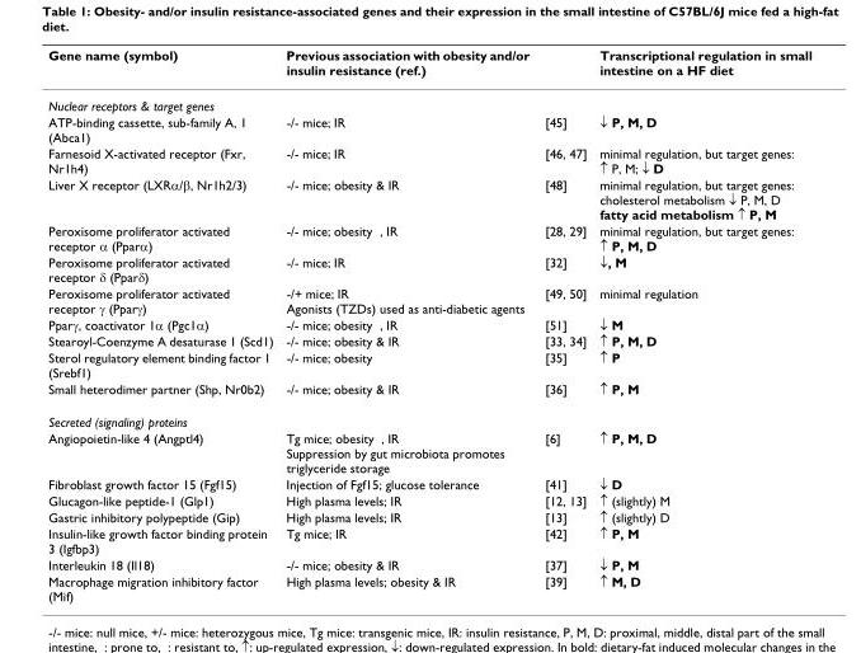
<table><thead><tr><td>Gene name (symbol)</td><td>Previous association with obesity and/or insulin resistance (ref.)</td><td></td><td>Transcriptional regulation in small intestine on a HF diet</td></tr></thead><tbody><tr><td colspan="4">Nuclear receptors &amp; target genes</td></tr><tr><td>ATP-binding cassette, sub-family A, 1 (Abca1)</td><td>-/- mice; IR</td><td>[45]</td><td>↓ P, M, D</td></tr><tr><td>Farnesoid X-activated receptor (Fxr, Nr1h4)</td><td>-/- mice; IR</td><td>[46, 47]</td><td>minimal regulation, but target genes: ↑ P, M; ↓ D</td></tr><tr><td>Liver X receptor (LXRα/β, Nr1h2/3)</td><td>-/- mice; obesity &amp; IR</td><td>[48]</td><td>minimal regulation, but target genes: cholesterol metabolism ↓ P, M, D fatty acid metabolism ↑ P, M</td></tr><tr><td>Peroxisome proliferator activated receptor α (Pparα)</td><td>-/- mice; obesity , IR</td><td>[28, 29]</td><td>minimal regulation, but target genes: ↑ P, M, D</td></tr><tr><td>Peroxisome proliferator activated receptor δ (Pparδ)</td><td>-/- mice; IR</td><td>[32]</td><td>↓, M</td></tr><tr><td>Peroxisome proliferator activated receptor γ (Pparγ)</td><td>-/+ mice; IR Agonists (TZDs) used as anti-diabetic agents</td><td>[49, 50]</td><td>minimal regulation</td></tr><tr><td>Pparγ, coactivator 1α (Pgc1α)</td><td>-/- mice; obesity , IR</td><td>[51]</td><td>↓ M</td></tr><tr><td>Stearoyl-Coenzyme A desaturase 1 (Scd1)</td><td>-/- mice; obesity &amp; IR</td><td>[33, 34]</td><td>↑ P, M, D</td></tr><tr><td>Sterol regulatory element binding factor 1 (Srebf1)</td><td>-/- mice; obesity</td><td>[35]</td><td>↑ P</td></tr><tr><td>Small heterodimer partner (Shp, Nr0b2)</td><td>-/- mice; obesity &amp; IR</td><td>[36]</td><td>↑ P, M</td></tr><tr><td colspan="4">Secreted (signaling) proteins</td></tr><tr><td>Angiopoietin-like 4 (Angptl4)</td><td>Tg mice; obesity , IR Suppression by gut microbiota promotes triglyceride storage</td><td>[6]</td><td>↑ P, M, D</td></tr><tr><td>Fibroblast growth factor 15 (Fgf15)</td><td>Injection of Fgf15; glucose tolerance</td><td>[41]</td><td>↓ D</td></tr><tr><td>Glucagon-like peptide-1 (Glp1)</td><td>High plasma levels; IR</td><td>[12, 13]</td><td>↑ (slightly) M</td></tr><tr><td>Gastric inhibitory polypeptide (Gip)</td><td>High plasma levels; IR</td><td>[13]</td><td>↑ (slightly) D</td></tr><tr><td>Insulin-like growth factor binding protein 3 (Igfbp3)</td><td>Tg mice; IR</td><td>[42]</td><td>↑ P, M</td></tr><tr><td>Interleukin 18 (Il18)</td><td>-/- mice; obesity &amp; IR</td><td>[37]</td><td>↓ P, M</td></tr><tr><td>Macrophage migration inhibitory factor (Mif)</td><td>High plasma levels; obesity &amp; IR</td><td>[39]</td><td>↑ M, D</td></tr></tbody></table>